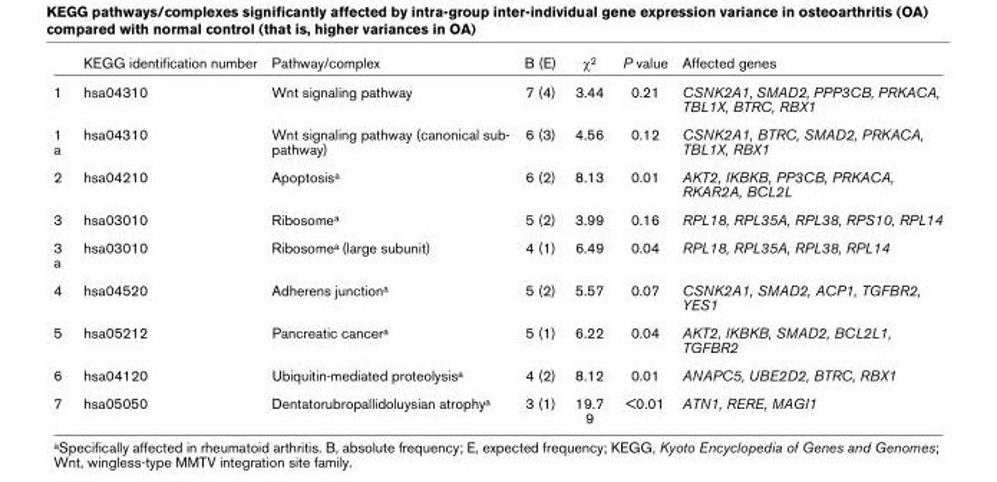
<table><thead><tr><td></td><td>KEGG identification number</td><td>Pathway/complex</td><td>B (E)</td><td>χ<sup>2</sup></td><td>P value</td><td>Affected genes</td></tr></thead><tbody><tr><td>1</td><td>hsa04310</td><td>Wnt signaling pathway</td><td>7 (4)</td><td>3.44</td><td>0.21</td><td>CSNK2A1, SMAD2, PPP3CB, PRKACA, TBL1X, BTRC, RBX1</td></tr><tr><td>1 a</td><td>hsa04310</td><td>Wnt signaling pathway (canonical sub- pathway)</td><td>6 (3)</td><td>4.56</td><td>0.12</td><td>CSNK2A1, BTRC, SMAD2, PRKACA, TBL1X, RBX1</td></tr><tr><td>2</td><td>hsa04210</td><td>Apoptosis<sup>a</sup></td><td>6 (2)</td><td>8.13</td><td>0.01</td><td>AKT2, IKBKB, PP3CB, PRKACA, RKAR2A, BCL2L</td></tr><tr><td>3</td><td>hsa03010</td><td>Ribosome<sup>a</sup></td><td>5 (2)</td><td>3.99</td><td>0.16</td><td>RPL18, RPL35A, RPL38, RPS10, RPL14</td></tr><tr><td>3 a</td><td>hsa03010</td><td>Ribosome<sup>a</sup> (large subunit)</td><td>4 (1)</td><td>6.49</td><td>0.04</td><td>RPL18, RPL35A, RPL38, RPL14</td></tr><tr><td>4</td><td>hsa04520</td><td>Adherens junction<sup>a</sup></td><td>5 (2)</td><td>5.57</td><td>0.07</td><td>CSNK2A1, SMAD2, ACP1, TGFBR2, YES1</td></tr><tr><td>5</td><td>hsa05212</td><td>Pancreatic cancer<sup>a</sup></td><td>5 (1)</td><td>6.22</td><td>0.04</td><td>AKT2, IKBKB, SMAD2, BCL2L1, TGFBR2</td></tr><tr><td>6</td><td>hsa04120</td><td>Ubiquitin-mediated proteolysis<sup>a</sup></td><td>4 (2)</td><td>8.12</td><td>0.01</td><td>ANAPC5, UBE2D2, BTRC, RBX1</td></tr><tr><td>7</td><td>hsa05050</td><td>Dentatorubropallidoluysian atrophy<sup>a</sup></td><td>3 (1)</td><td>19.7 9</td><td>&lt;0.01</td><td>ATN1, RERE, MAGI1</td></tr></tbody></table>